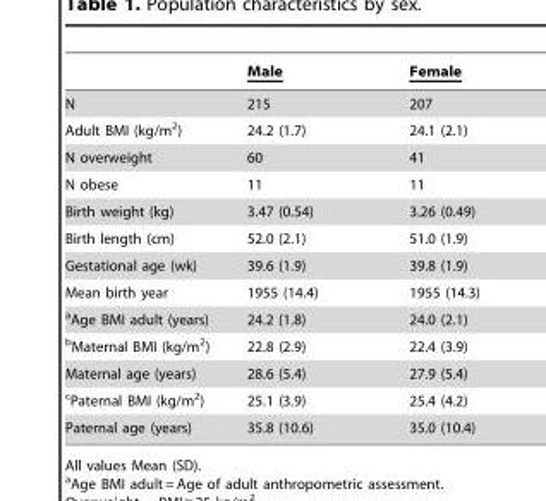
<table><thead><tr><td></td><td>Male</td><td>Female</td></tr></thead><tbody><tr><td>N</td><td>215</td><td>207</td></tr><tr><td>Adult BMI (kg/m<sup>2</sup>)</td><td>24.2 (1.7)</td><td>24.1 (2.1)</td></tr><tr><td>N overweight</td><td>60</td><td>41</td></tr><tr><td>N obese</td><td>11</td><td>11</td></tr><tr><td>Birth weight (kg)</td><td>3.47 (0.54)</td><td>3.26 (0.49)</td></tr><tr><td>Birth length (cm)</td><td>52.0 (2.1)</td><td>51.0 (1.9)</td></tr><tr><td>Gestational age (wk)</td><td>39.6 (1.9)</td><td>39.8 (1.9)</td></tr><tr><td>Mean birth year</td><td>1955 (14.4)</td><td>1955 (14.3)</td></tr><tr><td>aAge BMI adult (years)</td><td>24.2 (1.8)</td><td>24.0 (2.1)</td></tr><tr><td>bMaternal BMI (kg/m<sup>2</sup>)</td><td>22.8 (2.9)</td><td>22.4 (3.9)</td></tr><tr><td>Maternal age (years)</td><td>28.6 (5.4)</td><td>27.9 (5.4)</td></tr><tr><td>cPaternal BMI (kg/m<sup>2</sup>)</td><td>25.1 (3.9)</td><td>25.4 (4.2)</td></tr><tr><td>Paternal age (years)</td><td>35.8 (10.6)</td><td>35.0 (10.4)</td></tr></tbody></table>